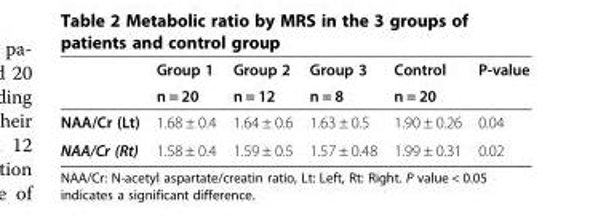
<table><thead><tr><td rowspan="2"></td><td rowspan="2">Group 1 n = 20</td><td rowspan="2">Group 2 n = 12</td><td rowspan="2">Group 3 n = 8</td><td rowspan="2">Control n = 20</td><td rowspan="2">P-value</td></tr><tr></tr></thead><tbody><tr><td>NAA/Cr (Lt)</td><td>1.68 ± 0.4</td><td>1.64 ± 0.6</td><td>1.63 ± 0.5</td><td>1.90 ± 0.26</td><td>0.04</td></tr><tr><td>NAA/Cr (Rt)</td><td>1.58 ± 0.4</td><td>1.59 ± 0.5</td><td>1.57 ± 0.48</td><td>1.99 ± 0.31</td><td>0.02</td></tr></tbody></table>